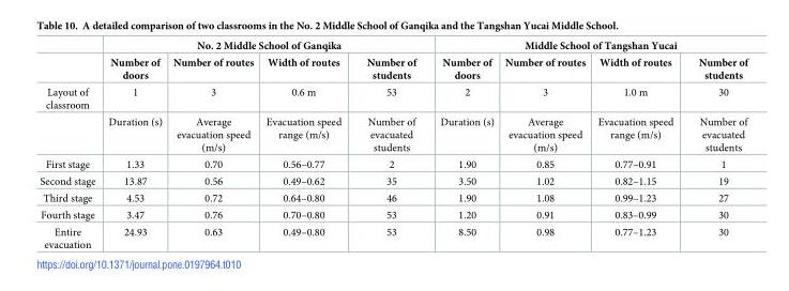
<table><thead><tr><td rowspan="2"></td><td colspan="4">No. 2 Middle School of Ganqika</td><td colspan="4">Middle School of Tangshan Yucai</td></tr><tr><td>Number of doors</td><td>Number of routes</td><td>Width of routes</td><td>Number of students</td><td>Number of doors</td><td>Number of routes</td><td>Width of routes</td><td>Number of students</td></tr></thead><tbody><tr><td rowspan="2">Layout of classroom</td><td>1</td><td>3</td><td>0.6 m</td><td>53</td><td>2</td><td>3</td><td>1.0 m</td><td>30</td></tr><tr><td>Duration (s)</td><td>Average evacuation speed (m/s)</td><td>Evacuation speed range (m/s)</td><td>Number of evacuated students</td><td>Duration (s)</td><td>Average evacuation speed (m/s)</td><td>Evacuation speed range (m/s)</td><td>Number of evacuated students</td></tr><tr><td>First stage</td><td>1.33</td><td>0.70</td><td>0.56–0.77</td><td>2</td><td>1.90</td><td>0.85</td><td>0.77–0.91</td><td>1</td></tr><tr><td>Second stage</td><td>13.87</td><td>0.56</td><td>0.49–0.62</td><td>35</td><td>3.50</td><td>1.02</td><td>0.82–1.15</td><td>19</td></tr><tr><td>Third stage</td><td>4.53</td><td>0.72</td><td>0.64–0.80</td><td>46</td><td>1.90</td><td>1.08</td><td>0.99–1.23</td><td>27</td></tr><tr><td>Fourth stage</td><td>3.47</td><td>0.76</td><td>0.70–0.80</td><td>53</td><td>1.20</td><td>0.91</td><td>0.83–0.99</td><td>30</td></tr><tr><td>Entire evacuation</td><td>24.93</td><td>0.63</td><td>0.49–0.80</td><td>53</td><td>8.50</td><td>0.98</td><td>0.77–1.23</td><td>30</td></tr></tbody></table>